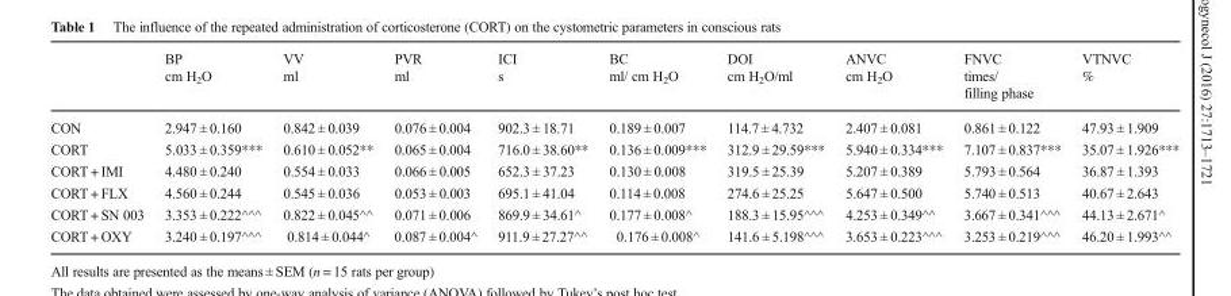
<table><thead><tr><td></td><td>BP cm H<sub>2</sub>O</td><td>VV ml</td><td>PVR ml</td><td>ICI s</td><td>BC ml/ cm H<sub>2</sub>O</td><td>DOI cm H<sub>2</sub>O/ml</td><td>ANVC cm H<sub>2</sub>O</td><td>FNVC times/ filling phase</td><td>VTNVC %</td></tr></thead><tbody><tr><td>CON</td><td>2.947 ± 0.160</td><td>0.842 ± 0.039</td><td>0.076 ± 0.004</td><td>902.3 ± 18.71</td><td>0.189 ± 0.007</td><td>114.7 ± 4.732</td><td>2.407 ± 0.081</td><td>0.861 ± 0.122</td><td>47.93 ± 1.909</td></tr><tr><td>CORT</td><td>5.033 ± 0.359***</td><td>0.610 ± 0.052**</td><td>0.065 ± 0.004</td><td>716.0 ± 38.60**</td><td>0.136 ± 0.009***</td><td>312.9 ± 29.59***</td><td>5.940 ± 0.334***</td><td>7.107 ± 0.837***</td><td>35.07 ± 1.926***</td></tr><tr><td>CORT + IMI</td><td>4.480 ± 0.240</td><td>0.554 ± 0.033</td><td>0.066 ± 0.005</td><td>652.3 ± 37.23</td><td>0.130 ± 0.008</td><td>319.5 ± 25.39</td><td>5.207 ± 0.389</td><td>5.793 ± 0.564</td><td>36.87 ± 1.393</td></tr><tr><td>CORT + FLX</td><td>4.560 ± 0.244</td><td>0.545 ± 0.036</td><td>0.053 ± 0.003</td><td>695.1 ± 41.04</td><td>0.114 ± 0.008</td><td>274.6 ± 25.25</td><td>5.647 ± 0.500</td><td>5.740 ± 0.513</td><td>40.67 ± 2.643</td></tr><tr><td>CORT + SN 003</td><td>3.353 ± 0.222^^^</td><td>0.822 ± 0.045^^</td><td>0.071 ± 0.006</td><td>869.9 ± 34.61^</td><td>0.177 ± 0.008^</td><td>188.3 ± 15.95^^^</td><td>4.253 ± 0.349^^</td><td>3.667 ± 0.341^^^</td><td>44.13 ± 2.671^</td></tr><tr><td>CORT + OXY</td><td>3.240 ± 0.197^^^</td><td>0.814 ± 0.044^</td><td>0.087 ± 0.004^</td><td>911.9 ± 27.27^^</td><td>0.176 ± 0.008^</td><td>141.6 ± 5.198^^^</td><td>3.653 ± 0.223^^^</td><td>3.253 ± 0.219^^^</td><td>46.20 ± 1.993^^</td></tr></tbody></table>